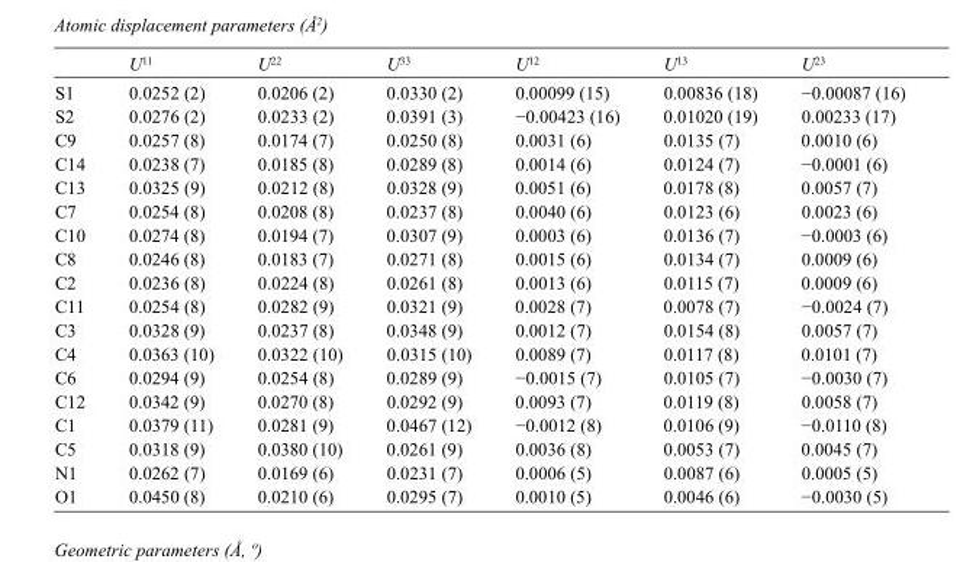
<table><thead><tr><td></td><td>U<sup>11</sup></td><td>U<sup>22</sup></td><td>U<sup>33</sup></td><td>U<sup>12</sup></td><td>U<sup>13</sup></td><td>U<sup>23</sup></td></tr></thead><tbody><tr><td>S1</td><td>0.0252 (2)</td><td>0.0206 (2)</td><td>0.0330 (2)</td><td>0.00099 (15)</td><td>0.00836 (18)</td><td>−0.00087 (16)</td></tr><tr><td>S2</td><td>0.0276 (2)</td><td>0.0233 (2)</td><td>0.0391 (3)</td><td>−0.00423 (16)</td><td>0.01020 (19)</td><td>0.00233 (17)</td></tr><tr><td>C9</td><td>0.0257 (8)</td><td>0.0174 (7)</td><td>0.0250 (8)</td><td>0.0031 (6)</td><td>0.0135 (7)</td><td>0.0010 (6)</td></tr><tr><td>C14</td><td>0.0238 (7)</td><td>0.0185 (8)</td><td>0.0289 (8)</td><td>0.0014 (6)</td><td>0.0124 (7)</td><td>−0.0001 (6)</td></tr><tr><td>C13</td><td>0.0325 (9)</td><td>0.0212 (8)</td><td>0.0328 (9)</td><td>0.0051 (6)</td><td>0.0178 (8)</td><td>0.0057 (7)</td></tr><tr><td>C7</td><td>0.0254 (8)</td><td>0.0208 (8)</td><td>0.0237 (8)</td><td>0.0040 (6)</td><td>0.0123 (6)</td><td>0.0023 (6)</td></tr><tr><td>C10</td><td>0.0274 (8)</td><td>0.0194 (7)</td><td>0.0307 (9)</td><td>0.0003 (6)</td><td>0.0136 (7)</td><td>−0.0003 (6)</td></tr><tr><td>C8</td><td>0.0246 (8)</td><td>0.0183 (7)</td><td>0.0271 (8)</td><td>0.0015 (6)</td><td>0.0134 (7)</td><td>0.0009 (6)</td></tr><tr><td>C2</td><td>0.0236 (8)</td><td>0.0224 (8)</td><td>0.0261 (8)</td><td>0.0013 (6)</td><td>0.0115 (7)</td><td>0.0009 (6)</td></tr><tr><td>C11</td><td>0.0254 (8)</td><td>0.0282 (9)</td><td>0.0321 (9)</td><td>0.0028 (7)</td><td>0.0078 (7)</td><td>−0.0024 (7)</td></tr><tr><td>C3</td><td>0.0328 (9)</td><td>0.0237 (8)</td><td>0.0348 (9)</td><td>0.0012 (7)</td><td>0.0154 (8)</td><td>0.0057 (7)</td></tr><tr><td>C4</td><td>0.0363 (10)</td><td>0.0322 (10)</td><td>0.0315 (10)</td><td>0.0089 (7)</td><td>0.0117 (8)</td><td>0.0101 (7)</td></tr><tr><td>C6</td><td>0.0294 (9)</td><td>0.0254 (8)</td><td>0.0289 (9)</td><td>−0.0015 (7)</td><td>0.0105 (7)</td><td>−0.0030 (7)</td></tr><tr><td>C12</td><td>0.0342 (9)</td><td>0.0270 (8)</td><td>0.0292 (9)</td><td>0.0093 (7)</td><td>0.0119 (8)</td><td>0.0058 (7)</td></tr><tr><td>C1</td><td>0.0379 (11)</td><td>0.0281 (9)</td><td>0.0467 (12)</td><td>−0.0012 (8)</td><td>0.0106 (9)</td><td>−0.0110 (8)</td></tr><tr><td>C5</td><td>0.0318 (9)</td><td>0.0380 (10)</td><td>0.0261 (9)</td><td>0.0036 (8)</td><td>0.0053 (7)</td><td>0.0045 (7)</td></tr><tr><td>N1</td><td>0.0262 (7)</td><td>0.0169 (6)</td><td>0.0231 (7)</td><td>0.0006 (5)</td><td>0.0087 (6)</td><td>0.0005 (5)</td></tr><tr><td>O1</td><td>0.0450 (8)</td><td>0.0210 (6)</td><td>0.0295 (7)</td><td>0.0010 (5)</td><td>0.0046 (6)</td><td>−0.0030 (5)</td></tr></tbody></table>